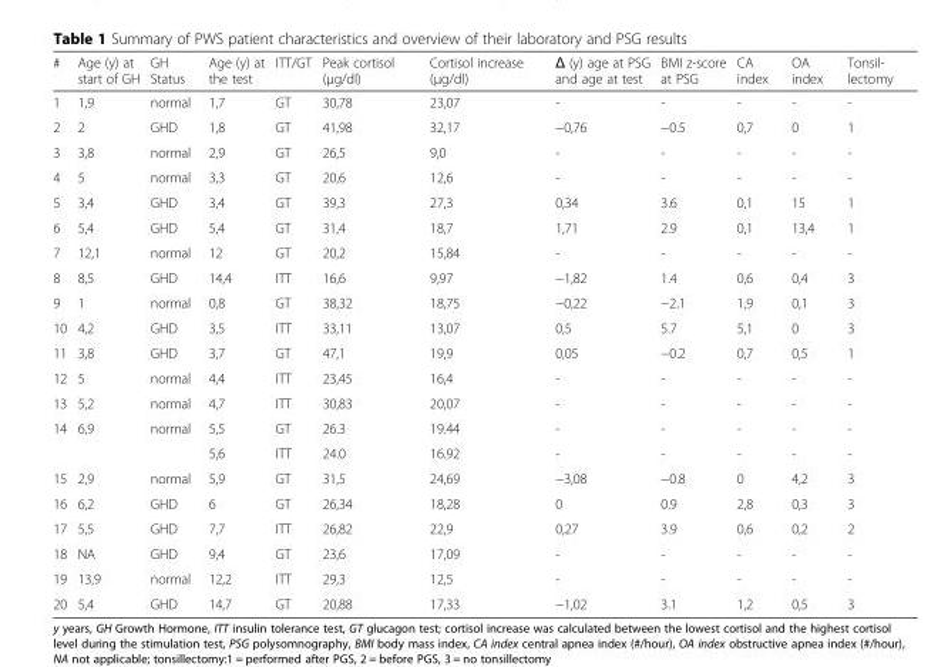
<table><thead><tr><td>#</td><td>Age (y) at start of GH</td><td>GH Status</td><td>Age (y) at the test</td><td>ITT/GT</td><td>Peak cortisol (μg/dl)</td><td>Cortisol increase (μg/dl)</td><td>Δ (y) age at PSG and age at test</td><td>BMI z-score at PSG</td><td>CA index</td><td>OA index</td><td>Tonsil- lectomy</td></tr></thead><tbody><tr><td>1</td><td>1,9</td><td>normal</td><td>1,7</td><td>GT</td><td>30,78</td><td>23,07</td><td>-</td><td>-</td><td>-</td><td>-</td><td>-</td></tr><tr><td>2</td><td>2</td><td>GHD</td><td>1,8</td><td>GT</td><td>41,98</td><td>32,17</td><td>−0,76</td><td>−0.5</td><td>0,7</td><td>0</td><td>1</td></tr><tr><td>3</td><td>3,8</td><td>normal</td><td>2,9</td><td>GT</td><td>26,5</td><td>9,0</td><td>-</td><td>-</td><td>-</td><td>-</td><td>-</td></tr><tr><td>4</td><td>5</td><td>normal</td><td>3,3</td><td>GT</td><td>20,6</td><td>12,6</td><td>-</td><td>-</td><td>-</td><td>-</td><td>-</td></tr><tr><td>5</td><td>3,4</td><td>GHD</td><td>3,4</td><td>GT</td><td>39,3</td><td>27,3</td><td>0,34</td><td>3.6</td><td>0,1</td><td>15</td><td>1</td></tr><tr><td>6</td><td>5,4</td><td>GHD</td><td>5,4</td><td>GT</td><td>31,4</td><td>18,7</td><td>1,71</td><td>2.9</td><td>0,1</td><td>13,4</td><td>1</td></tr><tr><td>7</td><td>12,1</td><td>normal</td><td>12</td><td>GT</td><td>20,2</td><td>15,84</td><td>-</td><td>-</td><td>-</td><td>-</td><td>-</td></tr><tr><td>8</td><td>8,5</td><td>GHD</td><td>14,4</td><td>ITT</td><td>16,6</td><td>9,97</td><td>−1,82</td><td>1.4</td><td>0,6</td><td>0,4</td><td>3</td></tr><tr><td>9</td><td>1</td><td>normal</td><td>0,8</td><td>GT</td><td>38,32</td><td>18,75</td><td>−0,22</td><td>−2.1</td><td>1,9</td><td>0,1</td><td>3</td></tr><tr><td>10</td><td>4,2</td><td>GHD</td><td>3,5</td><td>ITT</td><td>33,11</td><td>13,07</td><td>0,5</td><td>5.7</td><td>5,1</td><td>0</td><td>3</td></tr><tr><td>11</td><td>3,8</td><td>GHD</td><td>3,7</td><td>GT</td><td>47,1</td><td>19,9</td><td>0,05</td><td>−0.2</td><td>0,7</td><td>0,5</td><td>1</td></tr><tr><td>12</td><td>5</td><td>normal</td><td>4,4</td><td>ITT</td><td>23,45</td><td>16,4</td><td>-</td><td>-</td><td>-</td><td>-</td><td>-</td></tr><tr><td>13</td><td>5,2</td><td>normal</td><td>4,7</td><td>ITT</td><td>30,83</td><td>20,07</td><td>-</td><td>-</td><td>-</td><td>-</td><td>-</td></tr><tr><td rowspan="2">14</td><td>6,9</td><td>normal</td><td>5,5</td><td>GT</td><td>26.3</td><td>19.44</td><td>-</td><td>-</td><td>-</td><td>-</td><td>-</td></tr><tr><td></td><td></td><td>5,6</td><td>ITT</td><td>24.0</td><td>16.92</td><td>-</td><td>-</td><td>-</td><td>-</td><td>-</td></tr><tr><td>15</td><td>2,9</td><td>normal</td><td>5,9</td><td>GT</td><td>31,5</td><td>24,69</td><td>−3,08</td><td>−0.8</td><td>0</td><td>4,2</td><td>3</td></tr><tr><td>16</td><td>6,2</td><td>GHD</td><td>6</td><td>GT</td><td>26,34</td><td>18,28</td><td>0</td><td>0.9</td><td>2,8</td><td>0,3</td><td>3</td></tr><tr><td>17</td><td>5,5</td><td>GHD</td><td>7,7</td><td>ITT</td><td>26,82</td><td>22,9</td><td>0,27</td><td>3.9</td><td>0,6</td><td>0,2</td><td>2</td></tr><tr><td>18</td><td>NA</td><td>GHD</td><td>9,4</td><td>GT</td><td>23,6</td><td>17,09</td><td>-</td><td>-</td><td>-</td><td>-</td><td>-</td></tr><tr><td>19</td><td>13,9</td><td>normal</td><td>12,2</td><td>ITT</td><td>29,3</td><td>12,5</td><td>-</td><td>-</td><td>-</td><td>-</td><td>-</td></tr><tr><td>20</td><td>5,4</td><td>GHD</td><td>14,7</td><td>GT</td><td>20,88</td><td>17,33</td><td>−1,02</td><td>3.1</td><td>1,2</td><td>0,5</td><td>3</td></tr></tbody></table>